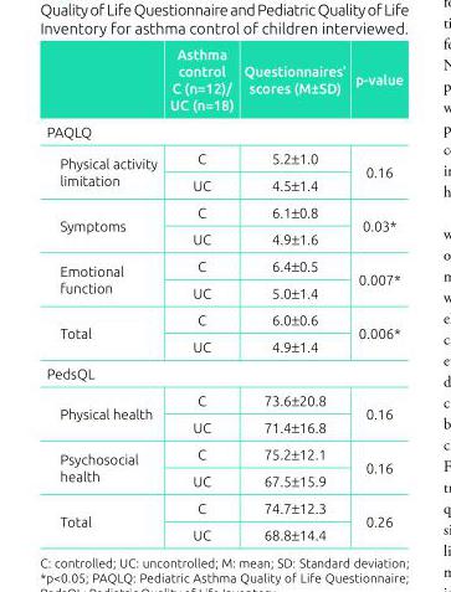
<table><thead><tr><td></td><td>Asthma control C (n=12)/ UC (n=18)</td><td>Questionnaires’ scores (M±SD)</td><td>p-value</td></tr></thead><tbody><tr><td colspan="4">PAQLQ</td></tr><tr><td rowspan="2">Physical activity limitation</td><td>C</td><td>5.2±1.0</td><td rowspan="2">0.16</td></tr><tr><td>UC</td><td>4.5±1.4</td></tr><tr><td rowspan="2">Symptoms</td><td>C</td><td>6.1±0.8</td><td rowspan="2">0.03*</td></tr><tr><td>UC</td><td>4.9±1.6</td></tr><tr><td rowspan="2">Emotional function</td><td>C</td><td>6.4±0.5</td><td rowspan="2">0.007*</td></tr><tr><td>UC</td><td>5.0±1.4</td></tr><tr><td rowspan="2">Total</td><td>C</td><td>6.0±0.6</td><td rowspan="2">0.006*</td></tr><tr><td>UC</td><td>4.9±1.4</td></tr><tr><td colspan="4">PedsQL</td></tr><tr><td rowspan="2">Physical health</td><td>C</td><td>73.6±20.8</td><td rowspan="2">0.16</td></tr><tr><td>UC</td><td>71.4±16.8</td></tr><tr><td rowspan="2">Psychosocial health</td><td>C</td><td>75.2±12.1</td><td rowspan="2">0.16</td></tr><tr><td>UC</td><td>67.5±15.9</td></tr><tr><td rowspan="2">Total</td><td>C</td><td>74.7±12.3</td><td rowspan="2">0.26</td></tr><tr><td>UC</td><td>68.8±14.4</td></tr></tbody></table>